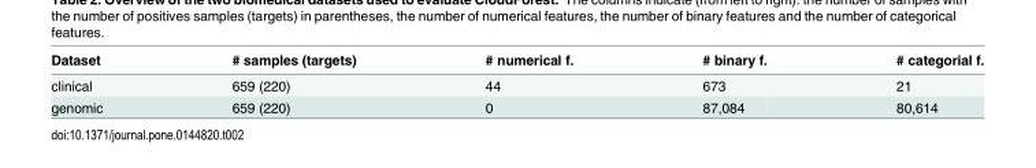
<table><thead><tr><td>Dataset</td><td># samples (targets)</td><td># numerical f.</td><td># binary f.</td><td># categorial f.</td></tr></thead><tbody><tr><td>clinical</td><td>659 (220)</td><td>44</td><td>673</td><td>21</td></tr><tr><td>genomic</td><td>659 (220)</td><td>0</td><td>87,084</td><td>80,614</td></tr></tbody></table>